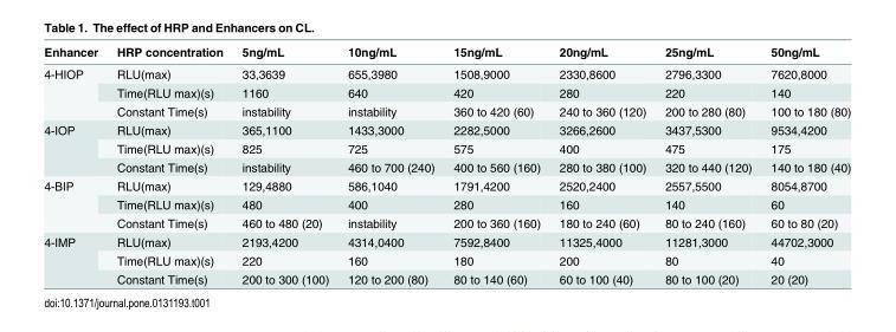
<table><thead><tr><td>Enhancer</td><td>HRP concentration</td><td>5ng/mL</td><td>10ng/mL</td><td>15ng/mL</td><td>20ng/mL</td><td>25ng/mL</td><td>50ng/mL</td></tr></thead><tbody><tr><td rowspan="3">4-HIOP</td><td>RLU(max)</td><td>33,3639</td><td>655,3980</td><td>1508,9000</td><td>2330,8600</td><td>2796,3300</td><td>7620,8000</td></tr><tr><td>Time(RLU max)(s)</td><td>1160</td><td>640</td><td>420</td><td>280</td><td>220</td><td>140</td></tr><tr><td>Constant Time(s)</td><td>instability</td><td>instability</td><td>360 to 420 (60)</td><td>240 to 360 (120)</td><td>200 to 280 (80)</td><td>100 to 180 (80)</td></tr><tr><td rowspan="3">4-IOP</td><td>RLU(max)</td><td>365,1100</td><td>1433,3000</td><td>2282,5000</td><td>3266,2600</td><td>3437,5300</td><td>9534,4200</td></tr><tr><td>Time(RLU max)(s)</td><td>825</td><td>725</td><td>575</td><td>400</td><td>475</td><td>175</td></tr><tr><td>Constant Time(s)</td><td>instability</td><td>460 to 700 (240)</td><td>400 to 560 (160)</td><td>280 to 380 (100)</td><td>320 to 440 (120)</td><td>140 to 180 (40)</td></tr><tr><td rowspan="3">4-BIP</td><td>RLU(max)</td><td>129,4880</td><td>586,1040</td><td>1791,4200</td><td>2520,2400</td><td>2557,5500</td><td>8054,8700</td></tr><tr><td>Time(RLU max)(s)</td><td>480</td><td>400</td><td>280</td><td>160</td><td>140</td><td>60</td></tr><tr><td>Constant Time(s)</td><td>460 to 480 (20)</td><td>instability</td><td>200 to 360 (160)</td><td>180 to 240 (60)</td><td>80 to 240 (160)</td><td>60 to 80 (20)</td></tr><tr><td rowspan="3">4-IMP</td><td>RLU(max)</td><td>2193,4200</td><td>4314,0400</td><td>7592,8400</td><td>11325,4000</td><td>11281,3000</td><td>44702,3000</td></tr><tr><td>Time(RLU max)(s)</td><td>220</td><td>160</td><td>180</td><td>200</td><td>80</td><td>40</td></tr><tr><td>Constant Time(s)</td><td>200 to 300 (100)</td><td>120 to 200 (80)</td><td>80 to 140 (60)</td><td>60 to 100 (40)</td><td>80 to 100 (20)</td><td>20 (20)</td></tr></tbody></table>